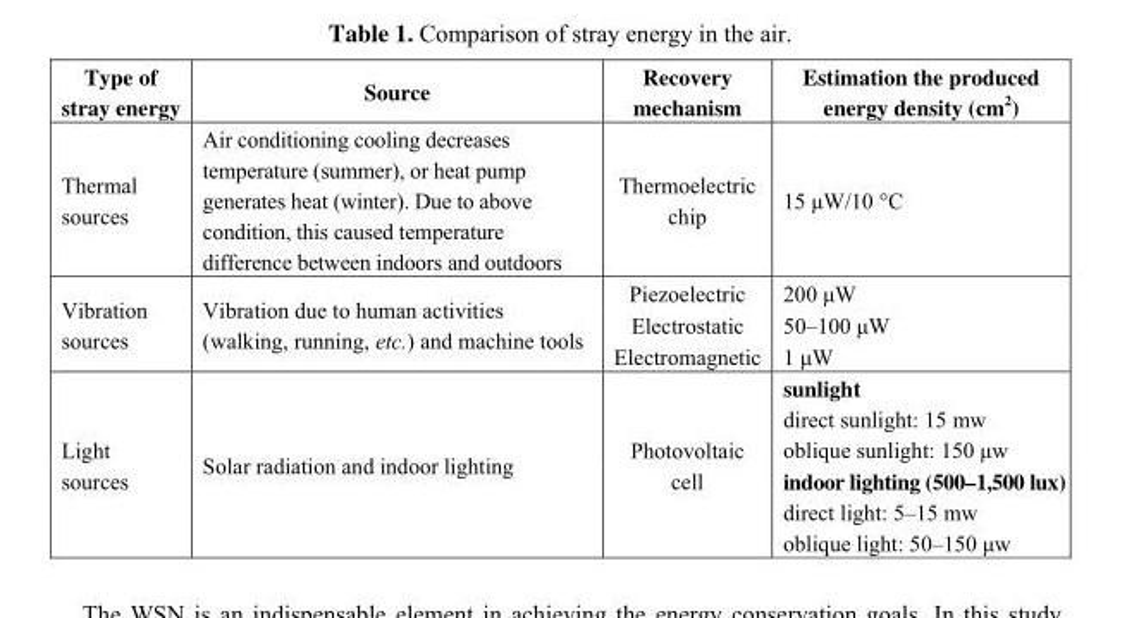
<table><thead><tr><td>Type of stray energy</td><td>Source</td><td>Recovery mechanism</td><td>Estimation the produced energy density (cm<sup>2</sup>)</td></tr></thead><tbody><tr><td>Thermal sources</td><td>Air conditioning cooling decreases temperature (summer), or heat pump generates heat (winter). Due to above condition, this caused temperature difference between indoors and outdoors</td><td>Thermoelectric chip</td><td>15 μW/10 °C</td></tr><tr><td>Vibration sources</td><td>Vibration due to human activities (walking, running, etc.) and machine tools</td><td>Piezoelectric Electrostatic Electromagnetic</td><td>200 μW 50–100 μW 1 μW</td></tr><tr><td>Light sources</td><td>Solar radiation and indoor lighting</td><td>Photovoltaic cell</td><td>sunlight direct sunlight: 15 mw oblique sunlight: 150 μw indoor lighting (500–1,500 lux) direct light: 5–15 mw oblique light: 50–150 μw</td></tr></tbody></table>